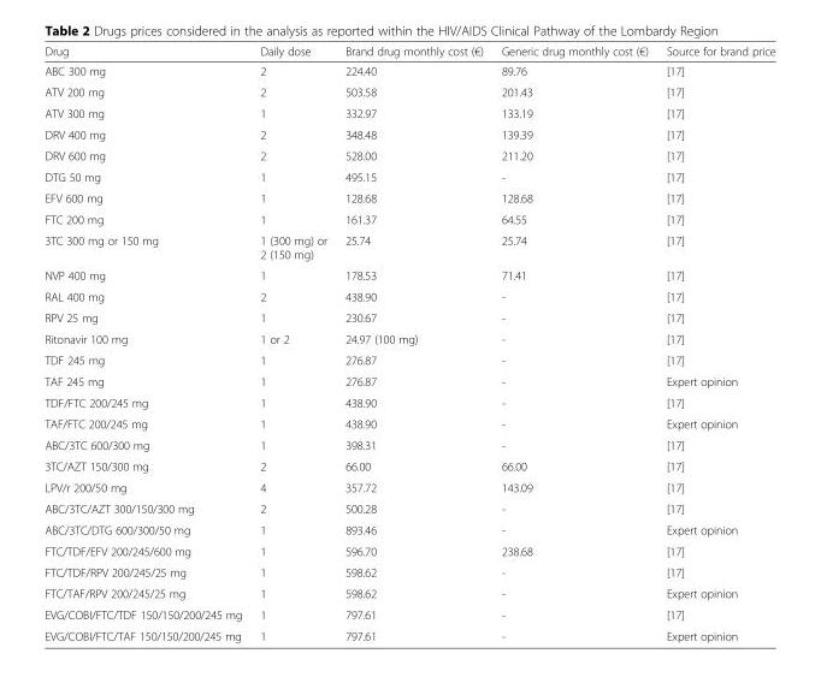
<table><thead><tr><td>Drug</td><td>Daily dose</td><td>Brand drug monthly cost (€)</td><td>Generic drug monthly cost (€)</td><td>Source for brand price</td></tr></thead><tbody><tr><td>ABC 300 mg</td><td>2</td><td>224.40</td><td>89.76</td><td>[17]</td></tr><tr><td>ATV 200 mg</td><td>2</td><td>503.58</td><td>201.43</td><td>[17]</td></tr><tr><td>ATV 300 mg</td><td>1</td><td>332.97</td><td>133.19</td><td>[17]</td></tr><tr><td>DRV 400 mg</td><td>2</td><td>348.48</td><td>139.39</td><td>[17]</td></tr><tr><td>DRV 600 mg</td><td>2</td><td>528.00</td><td>211.20</td><td>[17]</td></tr><tr><td>DTG 50 mg</td><td>1</td><td>495.15</td><td>-</td><td>[17]</td></tr><tr><td>EFV 600 mg</td><td>1</td><td>128.68</td><td>128.68</td><td>[17]</td></tr><tr><td>FTC 200 mg</td><td>1</td><td>161.37</td><td>64.55</td><td>[17]</td></tr><tr><td>3TC 300 mg or 150 mg</td><td>1 (300 mg) or 2 (150 mg)</td><td>25.74</td><td>25.74</td><td>[17]</td></tr><tr><td>NVP 400 mg</td><td>1</td><td>178.53</td><td>71.41</td><td>[17]</td></tr><tr><td>RAL 400 mg</td><td>2</td><td>438.90</td><td>-</td><td>[17]</td></tr><tr><td>RPV 25 mg</td><td>1</td><td>230.67</td><td>-</td><td>[17]</td></tr><tr><td>Ritonavir 100 mg</td><td>1 or 2</td><td>24.97 (100 mg)</td><td>-</td><td>[17]</td></tr><tr><td>TDF 245 mg</td><td>1</td><td>276.87</td><td>-</td><td>[17]</td></tr><tr><td>TAF 245 mg</td><td>1</td><td>276.87</td><td>-</td><td>Expert opinion</td></tr><tr><td>TDF/FTC 200/245 mg</td><td>1</td><td>438.90</td><td>-</td><td>[17]</td></tr><tr><td>TAF/FTC 200/245 mg</td><td>1</td><td>438.90</td><td>-</td><td>Expert opinion</td></tr><tr><td>ABC/3TC 600/300 mg</td><td>1</td><td>398.31</td><td>-</td><td>[17]</td></tr><tr><td>3TC/AZT 150/300 mg</td><td>2</td><td>66.00</td><td>66.00</td><td>[17]</td></tr><tr><td>LPV/r 200/50 mg</td><td>4</td><td>357.72</td><td>143.09</td><td>[17]</td></tr><tr><td>ABC/3TC/AZT 300/150/300 mg</td><td>2</td><td>500.28</td><td>-</td><td>[17]</td></tr><tr><td>ABC/3TC/DTG 600/300/50 mg</td><td>1</td><td>893.46</td><td>-</td><td>Expert opinion</td></tr><tr><td>FTC/TDF/EFV 200/245/600 mg</td><td>1</td><td>596.70</td><td>238.68</td><td>[17]</td></tr><tr><td>FTC/TDF/RPV 200/245/25 mg</td><td>1</td><td>598.62</td><td>-</td><td>[17]</td></tr><tr><td>FTC/TAF/RPV 200/245/25 mg</td><td>1</td><td>598.62</td><td>-</td><td>Expert opinion</td></tr><tr><td>EVG/COBI/FTC/TDF 150/150/200/245 mg</td><td>1</td><td>797.61</td><td>-</td><td>[17]</td></tr><tr><td>EVG/COBI/FTC/TAF 150/150/200/245 mg</td><td>1</td><td>797.61</td><td>-</td><td>Expert opinion</td></tr></tbody></table>